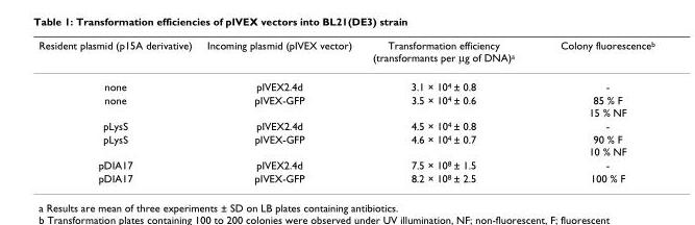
<table><thead><tr><td>Resident plasmid (p15A derivative)</td><td>Incoming plasmid (pIVEX vector)</td><td>Transformation efficiency (transformants per µg of DNA)<sup>a</sup></td><td>Colony fluorescence<sup>b</sup></td></tr></thead><tbody><tr><td>none</td><td>pIVEX2.4d</td><td>3.1 × 10<sup>4</sup> ± 0.8</td><td>-</td></tr><tr><td>none</td><td>pIVEX-GFP</td><td>3.5 × 10<sup>4</sup> ± 0.6</td><td>85 % F 15 % NF</td></tr><tr><td>pLysS</td><td>pIVEX2.4d</td><td>4.5 × 10<sup>4</sup> ± 0.8</td><td>-</td></tr><tr><td>pLysS</td><td>pIVEX-GFP</td><td>4.6 × 10<sup>4</sup> ± 0.7</td><td>90 % F 10 % NF</td></tr><tr><td>pDIA17</td><td>pIVEX2.4d</td><td>7.5 × 10<sup>8</sup> ± 1.5</td><td>-</td></tr><tr><td>pDIA17</td><td>pIVEX-GFP</td><td>8.2 × 10<sup>8</sup> ± 2.5</td><td>100 % F</td></tr></tbody></table>